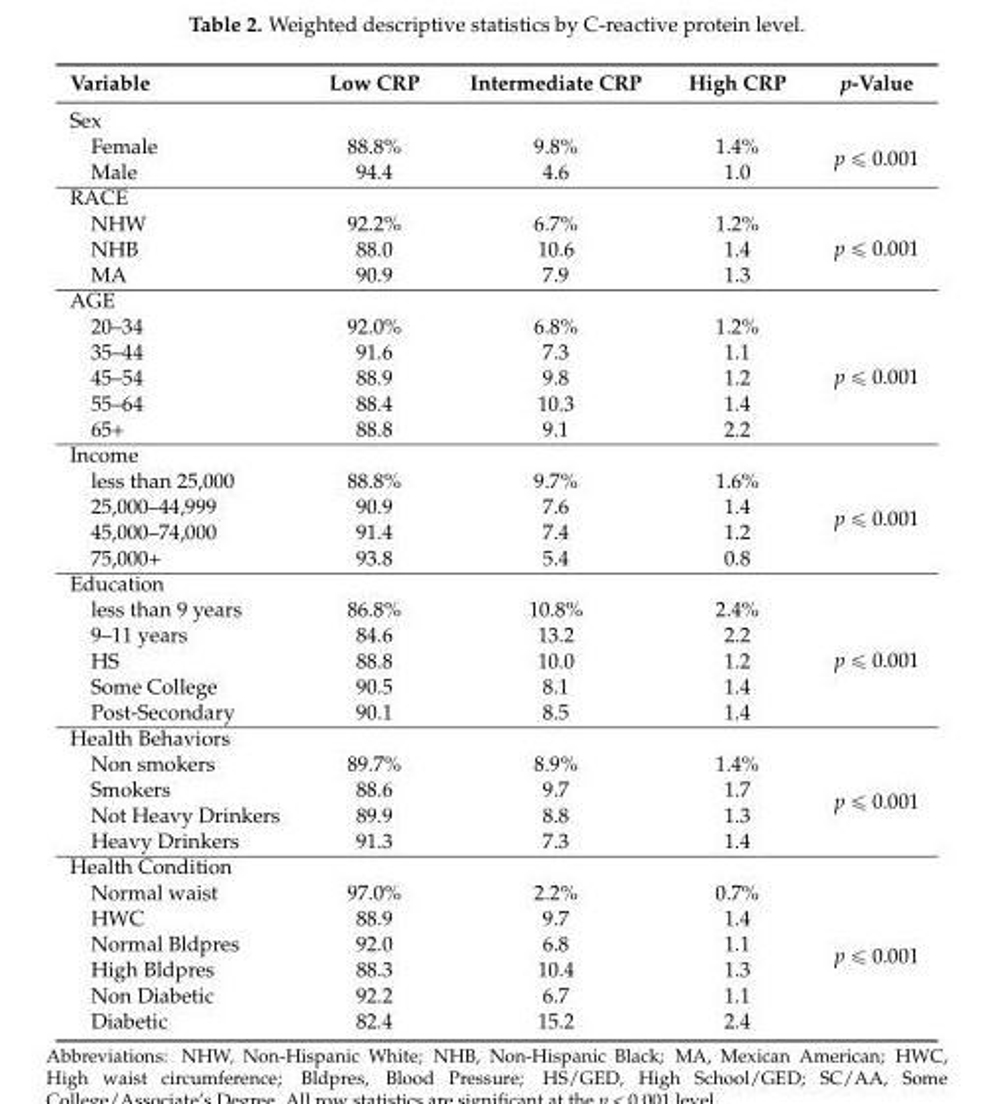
<table><thead><tr><td>Variable</td><td>Low CRP</td><td>Intermediate CRP</td><td>High CRP</td><td>p-Value</td></tr></thead><tbody><tr><td colspan="5">Sex</td></tr><tr><td>Female</td><td>88.8%</td><td>9.8%</td><td>1.4%</td><td rowspan="2">p ď 0.001</td></tr><tr><td>Male</td><td>94.4</td><td>4.6</td><td>1.0</td></tr><tr><td colspan="5">RACE</td></tr><tr><td>NHW</td><td>92.2%</td><td>6.7%</td><td>1.2%</td><td rowspan="3">p ď 0.001</td></tr><tr><td>NHB</td><td>88.0</td><td>10.6</td><td>1.4</td></tr><tr><td>MA</td><td>90.9</td><td>7.9</td><td>1.3</td></tr><tr><td colspan="5">AGE</td></tr><tr><td>20–34</td><td>92.0%</td><td>6.8%</td><td>1.2%</td><td rowspan="5">p ď 0.001</td></tr><tr><td>35–44</td><td>91.6</td><td>7.3</td><td>1.1</td></tr><tr><td>45–54</td><td>88.9</td><td>9.8</td><td>1.2</td></tr><tr><td>55–64</td><td>88.4</td><td>10.3</td><td>1.4</td></tr><tr><td>65+</td><td>88.8</td><td>9.1</td><td>2.2</td></tr><tr><td colspan="5">Income</td></tr><tr><td>less than 25,000</td><td>88.8%</td><td>9.7%</td><td>1.6%</td><td rowspan="4">p ď 0.001</td></tr><tr><td>25,000–44,999</td><td>90.9</td><td>7.6</td><td>1.4</td></tr><tr><td>45,000–74,000</td><td>91.4</td><td>7.4</td><td>1.2</td></tr><tr><td>75,000+</td><td>93.8</td><td>5.4</td><td>0.8</td></tr><tr><td colspan="5">Education</td></tr><tr><td>less than 9 years</td><td>86.8%</td><td>10.8%</td><td>2.4%</td><td rowspan="5">p ď 0.001</td></tr><tr><td>9–11 years</td><td>84.6</td><td>13.2</td><td>2.2</td></tr><tr><td>HS</td><td>88.8</td><td>10.0</td><td>1.2</td></tr><tr><td>Some College</td><td>90.5</td><td>8.1</td><td>1.4</td></tr><tr><td>Post-Secondary</td><td>90.1</td><td>8.5</td><td>1.4</td></tr><tr><td colspan="5">Health Behaviors</td></tr><tr><td>Non smokers</td><td>89.7%</td><td>8.9%</td><td>1.4%</td><td rowspan="4">p ď 0.001</td></tr><tr><td>Smokers</td><td>88.6</td><td>9.7</td><td>1.7</td></tr><tr><td>Not Heavy Drinkers</td><td>89.9</td><td>8.8</td><td>1.3</td></tr><tr><td>Heavy Drinkers</td><td>91.3</td><td>7.3</td><td>1.4</td></tr><tr><td colspan="5">Health Condition</td></tr><tr><td>Normal waist</td><td>97.0%</td><td>2.2%</td><td>0.7%</td><td rowspan="6">p ď 0.001</td></tr><tr><td>HWC</td><td>88.9</td><td>9.7</td><td>1.4</td></tr><tr><td>Normal Bldpres</td><td>92.0</td><td>6.8</td><td>1.1</td></tr><tr><td>High Bldpres</td><td>88.3</td><td>10.4</td><td>1.3</td></tr><tr><td>Non Diabetic</td><td>92.2</td><td>6.7</td><td>1.1</td></tr><tr><td>Diabetic</td><td>82.4</td><td>15.2</td><td>2.4</td></tr></tbody></table>